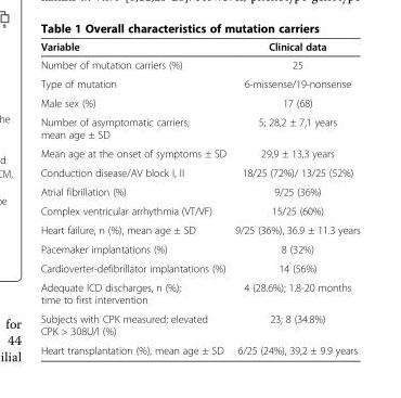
<table><thead><tr><td>Variable</td><td>Clinical data</td></tr></thead><tbody><tr><td>Number of mutation carriers (%)</td><td>25</td></tr><tr><td>Type of mutation</td><td>6-missense/19-nonsense</td></tr><tr><td>Male sex (%)</td><td>17 (68)</td></tr><tr><td>Number of asymptomatic carriers; mean age ± SD</td><td>5; 28,2 ± 7,1 years</td></tr><tr><td>Mean age at the onset of symptoms ± SD</td><td>29,9 ± 13,3 years</td></tr><tr><td>Conduction disease/AV block I, II</td><td>18/25 (72%)/ 13/25 (52%)</td></tr><tr><td>Atrial fibrillation (%)</td><td>9/25 (36%)</td></tr><tr><td>Complex ventricular arrhythmia (VT/VF)</td><td>15/25 (60%)</td></tr><tr><td>Heart failure, n (%), mean age ± SD</td><td>9/25 (36%), 36.9 ± 11.3 years</td></tr><tr><td>Pacemaker implantations (%)</td><td>8 (32%)</td></tr><tr><td>Cardioverter-defibrillator implantations (%)</td><td>14 (56%)</td></tr><tr><td>Adequate ICD discharges, n (%); time to first intervention</td><td>4 (28.6%); 1.8-20 months</td></tr><tr><td>Subjects with CPK measured; elevated CPK &gt; 308U/l (%)</td><td>23; 8 (34.8%)</td></tr><tr><td>Heart transplantation (%), mean age ± SD</td><td>6/25 (24%), 39,2 ± 9.9 years</td></tr></tbody></table>